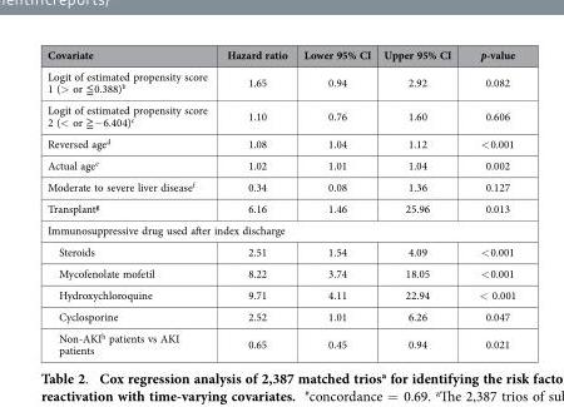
<table><thead><tr><td>Covariate</td><td>Hazard ratio</td><td>Lower 95% CI</td><td>Upper 95% CI</td><td>p-value</td></tr></thead><tbody><tr><td>Logit of estimated propensity score 1 (&gt; or ≦ 0.388)<sup>b</sup></td><td>1.65</td><td>0.94</td><td>2.92</td><td>0.082</td></tr><tr><td>Logit of estimated propensity score 2 (&lt; or ≧ − 6.404)<sup>c</sup></td><td>1.10</td><td>0.76</td><td>1.60</td><td>0.606</td></tr><tr><td>Reversed age<sup>d</sup></td><td>1.08</td><td>1.04</td><td>1.12</td><td>&lt; 0.001</td></tr><tr><td>Actual age<sup>e</sup></td><td>1.02</td><td>1.01</td><td>1.04</td><td>0.002</td></tr><tr><td>Moderate to severe liver disease<sup>f</sup></td><td>0.34</td><td>0.08</td><td>1.36</td><td>0.127</td></tr><tr><td>Transplant<sup>g</sup></td><td>6.16</td><td>1.46</td><td>25.96</td><td>0.013</td></tr><tr><td colspan="5">Immunosuppressive drug used after index discharge</td></tr><tr><td>Steroids</td><td>2.51</td><td>1.54</td><td>4.09</td><td>&lt; 0.001</td></tr><tr><td>Mycofenolate mofetil</td><td>8.22</td><td>3.74</td><td>18.05</td><td>&lt; 0.001</td></tr><tr><td>Hydroxychloroquine</td><td>9.71</td><td>4.11</td><td>22.94</td><td>&lt; 0.001</td></tr><tr><td>Cyclosporine</td><td>2.52</td><td>1.01</td><td>6.26</td><td>0.047</td></tr><tr><td>Non-AKI<sup>h</sup> patients vs AKI patients</td><td>0.65</td><td>0.45</td><td>0.94</td><td>0.021</td></tr></tbody></table>